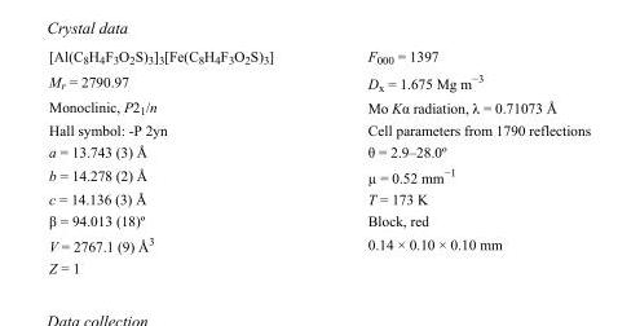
<table><tbody><tr><td>[Al(C<sub>8</sub>H<sub>4</sub>F<sub>3</sub>O<sub>2</sub>S)<sub>3</sub>]<sub>3</sub>[Fe(C<sub>8</sub>H<sub>4</sub>F<sub>3</sub>O<sub>2</sub>S)<sub>3</sub>]</td><td>F000 = 1397</td></tr><tr><td>M<sub>r</sub> = 2790.97</td><td>D<sub>x</sub> = 1.675 Mg m<sup>−3</sup></td></tr><tr><td>Monoclinic, P2<sub>1</sub>/n</td><td>Mo Kα radiation, λ = 0.71073 Å</td></tr><tr><td>Hall symbol: -P 2yn</td><td>Cell parameters from 1790 reflections</td></tr><tr><td>a = 13.743 (3) Å</td><td>θ = 2.9–28.0º</td></tr><tr><td>b = 14.278 (2) Å</td><td>µ = 0.52 mm<sup>−1</sup></td></tr><tr><td>c = 14.136 (3) Å</td><td>T = 173 K</td></tr><tr><td>β = 94.013 (18)º</td><td>Block, red</td></tr><tr><td>V = 2767.1 (9) Å<sup>3</sup></td><td>0.14 × 0.10 × 0.10 mm</td></tr><tr><td>Z = 1</td><td></td></tr></tbody></table>